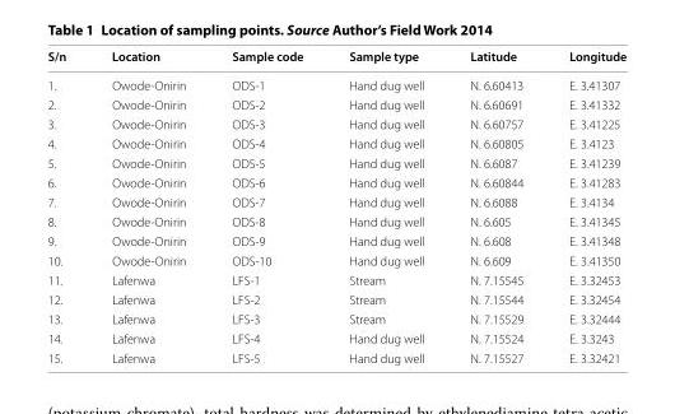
<table><thead><tr><td>S/n</td><td>Location</td><td>Sample code</td><td>Sample type</td><td>Latitude</td><td>Longitude</td></tr></thead><tbody><tr><td>1.</td><td>Owode-Onirin</td><td>ODS-1</td><td>Hand dug well</td><td>N. 6.60413</td><td>E. 3.41307</td></tr><tr><td>2.</td><td>Owode-Onirin</td><td>ODS-2</td><td>Hand dug well</td><td>N. 6.60691</td><td>E. 3.41332</td></tr><tr><td>3.</td><td>Owode-Onirin</td><td>ODS-3</td><td>Hand dug well</td><td>N. 6.60757</td><td>E. 3.41225</td></tr><tr><td>4.</td><td>Owode-Onirin</td><td>ODS-4</td><td>Hand dug well</td><td>N. 6.60805</td><td>E. 3.4123</td></tr><tr><td>5.</td><td>Owode-Onirin</td><td>ODS-5</td><td>Hand dug well</td><td>N. 6.6087</td><td>E. 3.41239</td></tr><tr><td>6.</td><td>Owode-Onirin</td><td>ODS-6</td><td>Hand dug well</td><td>N. 6.60844</td><td>E. 3.41283</td></tr><tr><td>7.</td><td>Owode-Onirin</td><td>ODS-7</td><td>Hand dug well</td><td>N. 6.6088</td><td>E. 3.4134</td></tr><tr><td>8.</td><td>Owode-Onirin</td><td>ODS-8</td><td>Hand dug well</td><td>N. 6.605</td><td>E. 3.41345</td></tr><tr><td>9.</td><td>Owode-Onirin</td><td>ODS-9</td><td>Hand dug well</td><td>N. 6.608</td><td>E. 3.41348</td></tr><tr><td>10.</td><td>Owode-Onirin</td><td>ODS-10</td><td>Hand dug well</td><td>N. 6.609</td><td>E. 3.41350</td></tr><tr><td>11.</td><td>Lafenwa</td><td>LFS-1</td><td>Stream</td><td>N. 7.15545</td><td>E. 3.32453</td></tr><tr><td>12.</td><td>Lafenwa</td><td>LFS-2</td><td>Stream</td><td>N. 7.15544</td><td>E. 3.32454</td></tr><tr><td>13.</td><td>Lafenwa</td><td>LFS-3</td><td>Stream</td><td>N. 7.15529</td><td>E. 3.32444</td></tr><tr><td>14.</td><td>Lafenwa</td><td>LFS-4</td><td>Hand dug well</td><td>N. 7.15524</td><td>E. 3.3243</td></tr><tr><td>15.</td><td>Lafenwa</td><td>LFS-5</td><td>Hand dug well</td><td>N. 7.15527</td><td>E. 3.32421</td></tr></tbody></table>